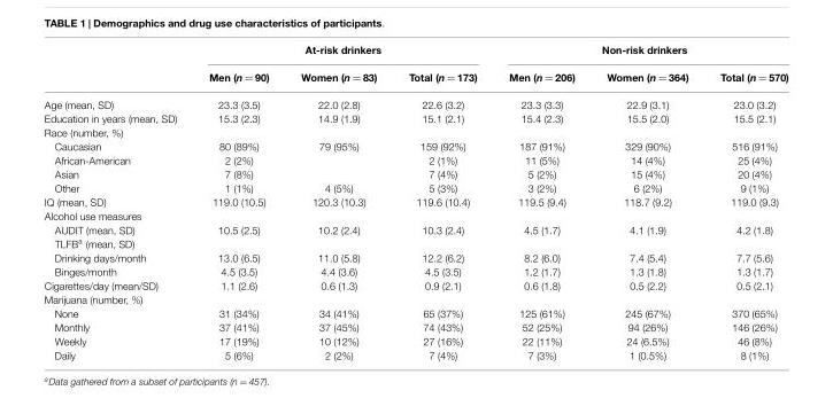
<table><thead><tr><td rowspan="2"></td><td colspan="3">At-risk drinkers</td><td colspan="3">Non-risk drinkers</td></tr><tr><td>Men (n = 90)</td><td>Women (n = 83)</td><td>Total (n = 173)</td><td>Men (n = 206)</td><td>Women (n = 364)</td><td>Total (n = 570)</td></tr></thead><tbody><tr><td>Age (mean, SD)</td><td>23.3 (3.5)</td><td>22.0 (2.8)</td><td>22.6 (3.2)</td><td>23.3 (3.3)</td><td>22.9 (3.1)</td><td>23.0 (3.2)</td></tr><tr><td>Education in years (mean, SD)</td><td>15.3 (2.3)</td><td>14.9 (1.9)</td><td>15.1 (2.1)</td><td>15.4 (2.3)</td><td>15.5 (2.0)</td><td>15.5 (2.1)</td></tr><tr><td colspan="7">Race (number, %)</td></tr><tr><td>Caucasian</td><td>80 (89%)</td><td>79 (95%)</td><td>159 (92%)</td><td>187 (91%)</td><td>329 (90%)</td><td>516 (91%)</td></tr><tr><td>African-American</td><td>2 (2%)</td><td></td><td>2 (1%)</td><td>11 (5%)</td><td>14 (4%)</td><td>25 (4%)</td></tr><tr><td>Asian</td><td>7 (8%)</td><td></td><td>7 (4%)</td><td>5 (2%)</td><td>15 (4%)</td><td>20 (4%)</td></tr><tr><td>Other</td><td>1 (1%)</td><td>4 (5%)</td><td>5 (3%)</td><td>3 (2%)</td><td>6 (2%)</td><td>9 (1%)</td></tr><tr><td>IQ (mean, SD)</td><td>119.0 (10.5)</td><td>120.3 (10.3)</td><td>119.6 (10.4)</td><td>119.5 (9.4)</td><td>118.7 (9.2)</td><td>119.0 (9.3)</td></tr><tr><td colspan="7">Alcohol use measures</td></tr><tr><td>AUDIT (mean, SD)</td><td>10.5 (2.5)</td><td>10.2 (2.4)</td><td>10.3 (2.4)</td><td>4.5 (1.7)</td><td>4.1 (1.9)</td><td>4.2 (1.8)</td></tr><tr><td colspan="7">TLFB<sup>a</sup> (mean, SD)</td></tr><tr><td>Drinking days/month</td><td>13.0 (6.5)</td><td>11.0 (5.8)</td><td>12.2 (6.2)</td><td>8.2 (6.0)</td><td>7.4 (5.4)</td><td>7.7 (5.6)</td></tr><tr><td>Binges/month</td><td>4.5 (3.5)</td><td>4.4 (3.6)</td><td>4.5 (3.5)</td><td>1.2 (1.7)</td><td>1.3 (1.8)</td><td>1.3 (1.7)</td></tr><tr><td>Cigarettes/day (mean/SD)</td><td>1.1 (2.6)</td><td>0.6 (1.3)</td><td>0.9 (2.1)</td><td>0.6 (1.8)</td><td>0.5 (2.2)</td><td>0.5 (2.1)</td></tr><tr><td colspan="7">Marijuana (number, %)</td></tr><tr><td>None</td><td>31 (34%)</td><td>34 (41%)</td><td>65 (37%)</td><td>125 (61%)</td><td>245 (67%)</td><td>370 (65%)</td></tr><tr><td>Monthly</td><td>37 (41%)</td><td>37 (45%)</td><td>74 (43%)</td><td>52 (25%)</td><td>94 (26%)</td><td>146 (26%)</td></tr><tr><td>Weekly</td><td>17 (19%)</td><td>10 (12%)</td><td>27 (16%)</td><td>22 (11%)</td><td>24 (6.5%)</td><td>46 (8%)</td></tr><tr><td>Daily</td><td>5 (6%)</td><td>2 (2%)</td><td>7 (4%)</td><td>7 (3%)</td><td>1 (0.5%)</td><td>8 (1%)</td></tr></tbody></table>